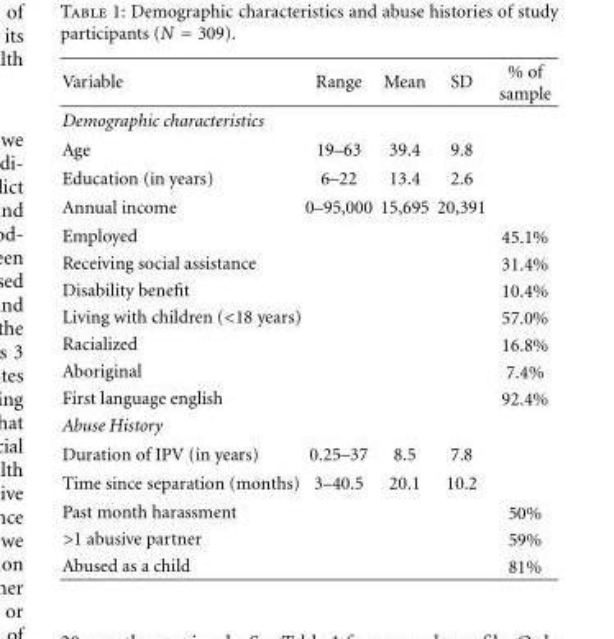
<table><thead><tr><td>Variable</td><td>Range</td><td>Mean</td><td>SD</td><td>% of sample</td></tr></thead><tbody><tr><td colspan="5">Demographic characteristics</td></tr><tr><td>Age</td><td>19–63</td><td>39.4</td><td>9.8</td><td></td></tr><tr><td>Education (in years)</td><td>6–22</td><td>13.4</td><td>2.6</td><td></td></tr><tr><td>Annual income</td><td>0–95,000</td><td>15,695</td><td>20,391</td><td></td></tr><tr><td>Employed</td><td></td><td></td><td></td><td>45.1%</td></tr><tr><td>Receiving social assistance</td><td></td><td></td><td></td><td>31.4%</td></tr><tr><td>Disability benefit</td><td></td><td></td><td></td><td>10.4%</td></tr><tr><td>Living with children (&lt;18 years)</td><td></td><td></td><td></td><td>57.0%</td></tr><tr><td>Racialized</td><td></td><td></td><td></td><td>16.8%</td></tr><tr><td>Aboriginal</td><td></td><td></td><td></td><td>7.4%</td></tr><tr><td>First language english</td><td></td><td></td><td></td><td>92.4%</td></tr><tr><td colspan="5">Abuse History</td></tr><tr><td>Duration of IPV (in years)</td><td>0.25–37</td><td>8.5</td><td>7.8</td><td></td></tr><tr><td>Time since separation (months)</td><td>3–40.5</td><td>20.1</td><td>10.2</td><td></td></tr><tr><td>Past month harassment</td><td></td><td></td><td></td><td>50%</td></tr><tr><td>&gt;1 abusive partner</td><td></td><td></td><td></td><td>59%</td></tr><tr><td>Abused as a child</td><td></td><td></td><td></td><td>81%</td></tr></tbody></table>